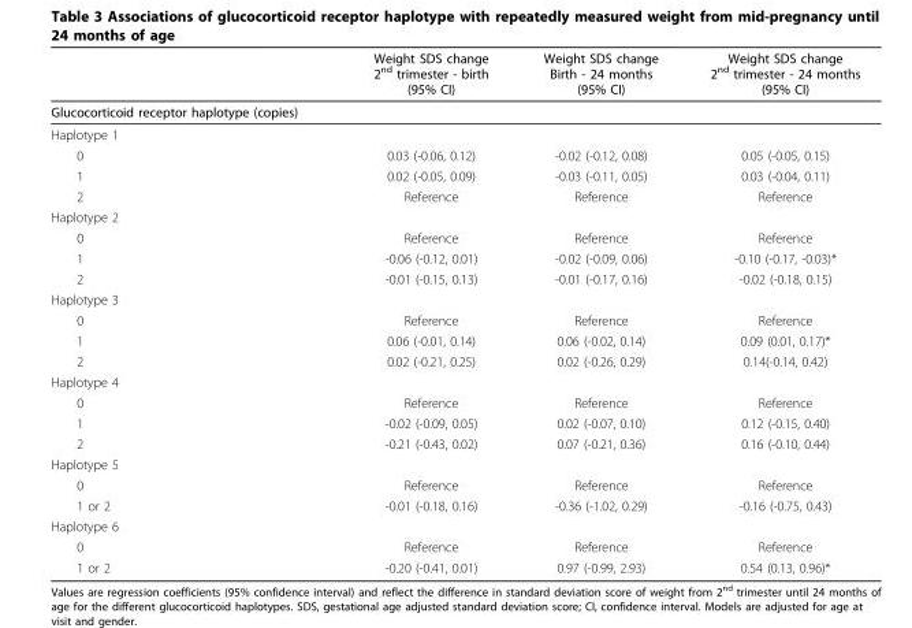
<table><thead><tr><td></td><td>Weight SDS change 2<sup>nd</sup> trimester - birth (95% CI)</td><td>Weight SDS change Birth - 24 months (95% CI)</td><td>Weight SDS change 2<sup>nd</sup> trimester - 24 months (95% CI)</td></tr></thead><tbody><tr><td colspan="4">Glucocorticoid receptor haplotype (copies)</td></tr><tr><td colspan="4">Haplotype 1</td></tr><tr><td>0</td><td>0.03 (-0.06, 0.12)</td><td>-0.02 (-0.12, 0.08)</td><td>0.05 (-0.05, 0.15)</td></tr><tr><td>1</td><td>0.02 (-0.05, 0.09)</td><td>-0.03 (-0.11, 0.05)</td><td>0.03 (-0.04, 0.11)</td></tr><tr><td>2</td><td>Reference</td><td>Reference</td><td>Reference</td></tr><tr><td colspan="4">Haplotype 2</td></tr><tr><td>0</td><td>Reference</td><td>Reference</td><td>Reference</td></tr><tr><td>1</td><td>-0.06 (-0.12, 0.01)</td><td>-0.02 (-0.09, 0.06)</td><td>-0.10 (-0.17, -0.03)*</td></tr><tr><td>2</td><td>-0.01 (-0.15, 0.13)</td><td>-0.01 (-0.17, 0.16)</td><td>-0.02 (-0.18, 0.15)</td></tr><tr><td colspan="4">Haplotype 3</td></tr><tr><td>0</td><td>Reference</td><td>Reference</td><td>Reference</td></tr><tr><td>1</td><td>0.06 (-0.01, 0.14)</td><td>0.06 (-0.02, 0.14)</td><td>0.09 (0.01, 0.17)*</td></tr><tr><td>2</td><td>0.02 (-0.21, 0.25)</td><td>0.02 (-0.26, 0.29)</td><td>0.14(-0.14, 0.42)</td></tr><tr><td colspan="4">Haplotype 4</td></tr><tr><td>0</td><td>Reference</td><td>Reference</td><td>Reference</td></tr><tr><td>1</td><td>-0.02 (-0.09, 0.05)</td><td>0.02 (-0.07, 0.10)</td><td>0.12 (-0.15, 0.40)</td></tr><tr><td>2</td><td>-0.21 (-0.43, 0.02)</td><td>0.07 (-0.21, 0.36)</td><td>0.16 (-0.10, 0.44)</td></tr><tr><td colspan="4">Haplotype 5</td></tr><tr><td>0</td><td>Reference</td><td>Reference</td><td>Reference</td></tr><tr><td>1 or 2</td><td>-0.01 (-0.18, 0.16)</td><td>-0.36 (-1.02, 0.29)</td><td>-0.16 (-0.75, 0.43)</td></tr><tr><td colspan="4">Haplotype 6</td></tr><tr><td>0</td><td>Reference</td><td>Reference</td><td>Reference</td></tr><tr><td>1 or 2</td><td>-0.20 (-0.41, 0.01)</td><td>0.97 (-0.99, 2.93)</td><td>0.54 (0.13, 0.96)*</td></tr></tbody></table>